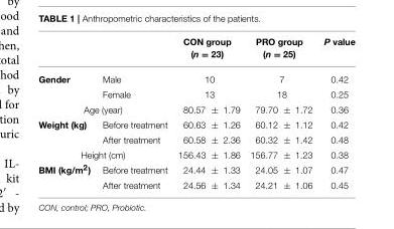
<table><thead><tr><td></td><td></td><td>CON group (n = 23)</td><td>PRO group (n = 25)</td><td>P value</td></tr></thead><tbody><tr><td rowspan="2">Gender</td><td>Male</td><td>10</td><td>7</td><td>0.42</td></tr><tr><td>Female</td><td>13</td><td>18</td><td>0.25</td></tr><tr><td colspan="2">Age (year)</td><td>80.57 ± 1.79</td><td>79.70 ± 1.72</td><td>0.36</td></tr><tr><td rowspan="2">Weight (kg)</td><td>Before treatment</td><td>60.63 ± 1.26</td><td>60.12 ± 1.12</td><td>0.42</td></tr><tr><td>After treatment</td><td>60.58 ± 2.36</td><td>60.32 ± 1.42</td><td>0.48</td></tr><tr><td colspan="2">Height (cm)</td><td>156.43 ± 1.86</td><td>156.77 ± 1.23</td><td>0.38</td></tr><tr><td rowspan="2">BMI (kg/m<sup>2</sup>)</td><td>Before treatment</td><td>24.44 ± 1.33</td><td>24.05 ± 1.07</td><td>0.47</td></tr><tr><td>After treatment</td><td>24.56 ± 1.34</td><td>24.21 ± 1.06</td><td>0.45</td></tr></tbody></table>